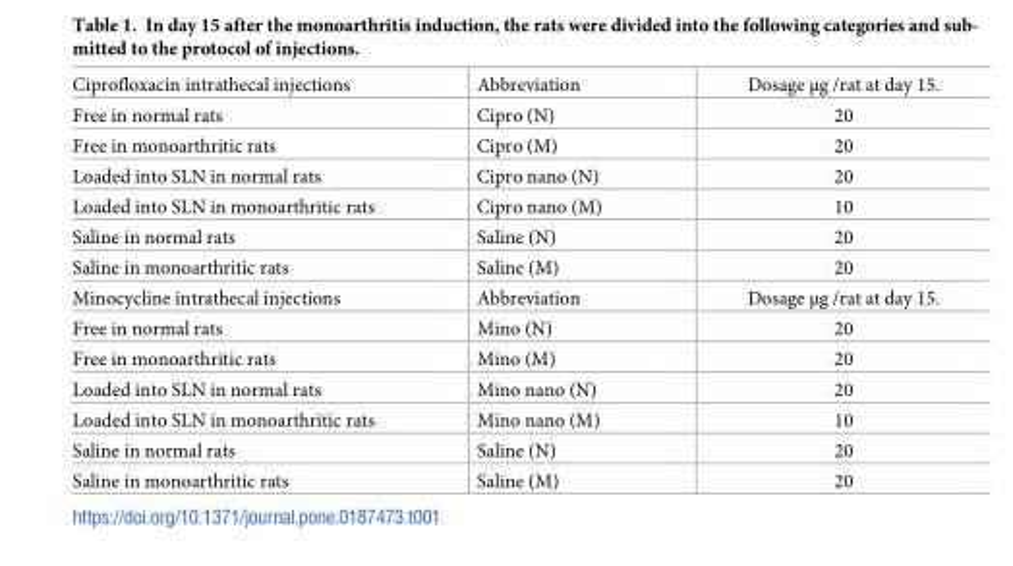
<table><tbody><tr><td>Ciprofloxacin intrathecal injections</td><td>Abbreviation</td><td>Dosage μg /rat at day 15.</td></tr><tr><td>Free in normal rats</td><td>Cipro (N)</td><td>20</td></tr><tr><td>Free in monoarthritic rats</td><td>Cipro (M)</td><td>20</td></tr><tr><td>Loaded into SLN in normal rats</td><td>Cipro nano (N)</td><td>20</td></tr><tr><td>Loaded into SLN in monoarthritic rats</td><td>Cipro nano (M)</td><td>10</td></tr><tr><td>Saline in normal rats</td><td>Saline (N)</td><td>20</td></tr><tr><td>Saline in monoarthritic rats</td><td>Saline (M)</td><td>20</td></tr><tr><td>Minocycline intrathecal injections</td><td>Abbreviation</td><td>Dosage μg /rat at day 15.</td></tr><tr><td>Free in normal rats</td><td>Mino (N)</td><td>20</td></tr><tr><td>Free in monoarthritic rats</td><td>Mino (M)</td><td>20</td></tr><tr><td>Loaded into SLN in normal rats</td><td>Mino nano (N)</td><td>20</td></tr><tr><td>Loaded into SLN in monoarthritic rats</td><td>Mino nano (M)</td><td>10</td></tr><tr><td>Saline in normal rats</td><td>Saline (N)</td><td>20</td></tr><tr><td>Saline in monoarthritic rats</td><td>Saline (M)</td><td>20</td></tr></tbody></table>